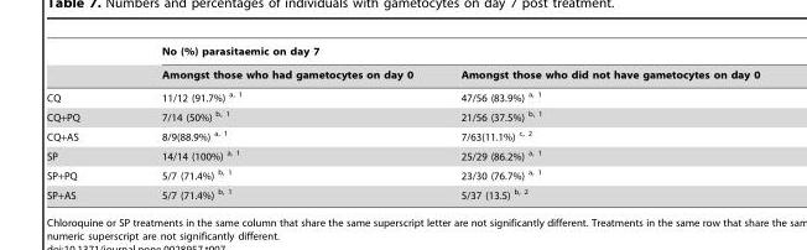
<table><thead><tr><td rowspan="2"></td><td colspan="2">No (%) parasitaemic on day 7</td></tr><tr><td>Amongst those who had gametocytes on day 0</td><td>Amongst those who did not have gametocytes on day 0</td></tr></thead><tbody><tr><td>CQ</td><td>11/12 (91.7%) <sup>a, 1</sup></td><td>47/56 (83.9%) <sup>a, 1</sup></td></tr><tr><td>CQ+PQ</td><td>7/14 (50%) <sup>b, 1</sup></td><td>21/56 (37.5%) <sup>b, 1</sup></td></tr><tr><td>CQ+AS</td><td>8/9(88.9%) <sup>a, 1</sup></td><td>7/63(11.1%) <sup>c, 2</sup></td></tr><tr><td>SP</td><td>14/14 (100%) <sup>a, 1</sup></td><td>25/29 (86.2%) <sup>a, 1</sup></td></tr><tr><td>SP+PQ</td><td>5/7 (71.4%) <sup>b, 1</sup></td><td>23/30 (76.7%) <sup>a, 1</sup></td></tr><tr><td>SP+AS</td><td>5/7 (71.4%) <sup>b, 1</sup></td><td>5/37 (13.5) <sup>b, 2</sup></td></tr></tbody></table>